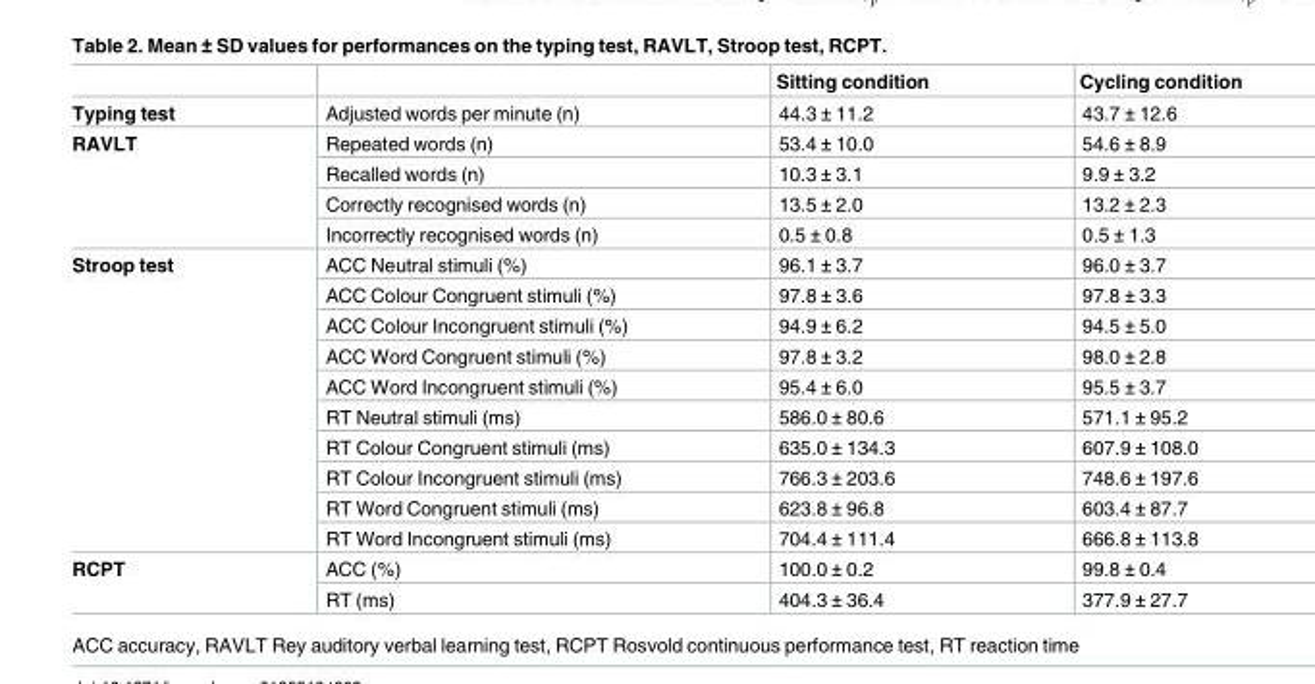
<table><thead><tr><td></td><td></td><td>Sitting condition</td><td>Cycling condition</td></tr></thead><tbody><tr><td>Typing test</td><td>Adjusted words per minute (n)</td><td>44.3 ± 11.2</td><td>43.7 ± 12.6</td></tr><tr><td rowspan="4">RAVLT</td><td>Repeated words (n)</td><td>53.4 ± 10.0</td><td>54.6 ± 8.9</td></tr><tr><td>Recalled words (n)</td><td>10.3 ± 3.1</td><td>9.9 ± 3.2</td></tr><tr><td>Correctly recognised words (n)</td><td>13.5 ± 2.0</td><td>13.2 ± 2.3</td></tr><tr><td>Incorrectly recognised words (n)</td><td>0.5 ± 0.8</td><td>0.5 ± 1.3</td></tr><tr><td rowspan="10">Stroop test</td><td>ACC Neutral stimuli (%)</td><td>96.1 ± 3.7</td><td>96.0 ± 3.7</td></tr><tr><td>ACC Colour Congruent stimuli (%)</td><td>97.8 ± 3.6</td><td>97.8 ± 3.3</td></tr><tr><td>ACC Colour Incongruent stimuli (%)</td><td>94.9 ± 6.2</td><td>94.5 ± 5.0</td></tr><tr><td>ACC Word Congruent stimuli (%)</td><td>97.8 ± 3.2</td><td>98.0 ± 2.8</td></tr><tr><td>ACC Word Incongruent stimuli (%)</td><td>95.4 ± 6.0</td><td>95.5 ± 3.7</td></tr><tr><td>RT Neutral stimuli (ms)</td><td>586.0 ± 80.6</td><td>571.1 ± 95.2</td></tr><tr><td>RT Colour Congruent stimuli (ms)</td><td>635.0 ± 134.3</td><td>607.9 ± 108.0</td></tr><tr><td>RT Colour Incongruent stimuli (ms)</td><td>766.3 ± 203.6</td><td>748.6 ± 197.6</td></tr><tr><td>RT Word Congruent stimuli (ms)</td><td>623.8 ± 96.8</td><td>603.4 ± 87.7</td></tr><tr><td>RT Word Incongruent stimuli (ms)</td><td>704.4 ± 111.4</td><td>666.8 ± 113.8</td></tr><tr><td rowspan="2">RCPT</td><td>ACC (%)</td><td>100.0 ± 0.2</td><td>99.8 ± 0.4</td></tr><tr><td>RT (ms)</td><td>404.3 ± 36.4</td><td>377.9 ± 27.7</td></tr></tbody></table>